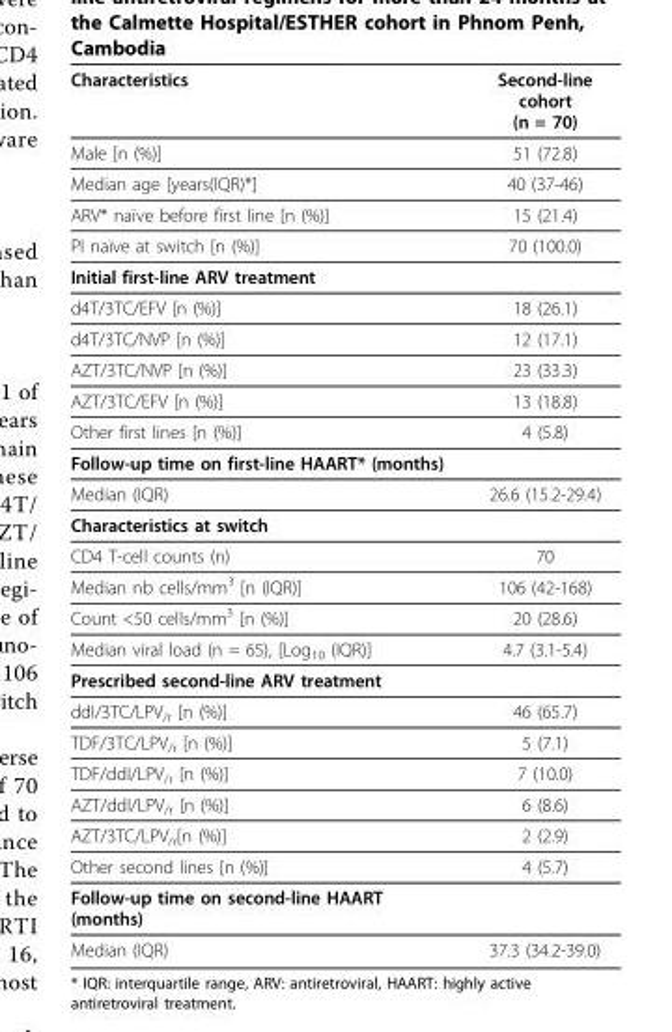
<table><thead><tr><td>Characteristics</td><td>Second-line cohort (n = 70)</td></tr></thead><tbody><tr><td>Male [n (%)]</td><td>51 (72.8)</td></tr><tr><td>Median age [years(IQR)*]</td><td>40 (37-46)</td></tr><tr><td>ARV* naïve before first line [n (%)]</td><td>15 (21.4)</td></tr><tr><td>PI naïve at switch [n (%)]</td><td>70 (100.0)</td></tr><tr><td colspan="2">Initial first-line ARV treatment</td></tr><tr><td>d4T/3TC/EFV [n (%)]</td><td>18 (26.1)</td></tr><tr><td>d4T/3TC/NVP [n (%)]</td><td>12 (17.1)</td></tr><tr><td>AZT/3TC/NVP [n (%)]</td><td>23 (33.3)</td></tr><tr><td>AZT/3TC/EFV [n (%)]</td><td>13 (18.8)</td></tr><tr><td>Other first lines [n (%)]</td><td>4 (5.8)</td></tr><tr><td colspan="2">Follow-up time on first-line HAART* (months)</td></tr><tr><td>Median (IQR)</td><td>26.6 (15.2-29.4)</td></tr><tr><td colspan="2">Characteristics at switch</td></tr><tr><td>CD4 T-cell counts (n)</td><td>70</td></tr><tr><td>Median nb cells/mm<sup>3</sup> [n (IQR)]</td><td>106 (42-168)</td></tr><tr><td>Count &lt;50 cells/mm<sup>3</sup> [n (%)]</td><td>20 (28.6)</td></tr><tr><td>Median viral load (n = 65), [Log<sub>10</sub> (IQR)]</td><td>4.7 (3.1-5.4)</td></tr><tr><td colspan="2">Prescribed second-line ARV treatment</td></tr><tr><td>ddI/3TC/LPV<sub>/r</sub> [n (%)]</td><td>46 (65.7)</td></tr><tr><td>TDF/3TC/LPV<sub>/r</sub> [n (%)]</td><td>5 (7.1)</td></tr><tr><td>TDF/ddI/LPV<sub>/r</sub> [n (%)]</td><td>7 (10.0)</td></tr><tr><td>AZT/ddI/LPV<sub>/r</sub> [n (%)]</td><td>6 (8.6)</td></tr><tr><td>AZT/3TC/LPV<sub>/r</sub>[n (%)]</td><td>2 (2.9)</td></tr><tr><td>Other second lines [n (%)]</td><td>4 (5.7)</td></tr><tr><td colspan="2">Follow-up time on second-line HAART (months)</td></tr><tr><td>Median (IQR)</td><td>37.3 (34.2-39.0)</td></tr></tbody></table>